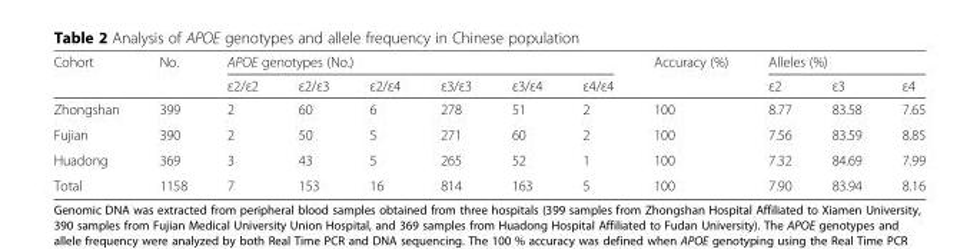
<table><thead><tr><td rowspan="2">Cohort</td><td rowspan="2">No.</td><td colspan="6">APOE genotypes (No.)</td><td rowspan="2">Accuracy (%)</td><td colspan="3">Alleles (%)</td></tr><tr><td>ε2/ε2</td><td>ε2/ε3</td><td>ε2/ε4</td><td>ε3/ε3</td><td>ε3/ε4</td><td>ε4/ε4</td><td>ε2</td><td>ε3</td><td>ε4</td></tr></thead><tbody><tr><td>Zhongshan</td><td>399</td><td>2</td><td>60</td><td>6</td><td>278</td><td>51</td><td>2</td><td>100</td><td>8.77</td><td>83.58</td><td>7.65</td></tr><tr><td>Fujian</td><td>390</td><td>2</td><td>50</td><td>5</td><td>271</td><td>60</td><td>2</td><td>100</td><td>7.56</td><td>83.59</td><td>8.85</td></tr><tr><td>Huadong</td><td>369</td><td>3</td><td>43</td><td>5</td><td>265</td><td>52</td><td>1</td><td>100</td><td>7.32</td><td>84.69</td><td>7.99</td></tr><tr><td>Total</td><td>1158</td><td>7</td><td>153</td><td>16</td><td>814</td><td>163</td><td>5</td><td>100</td><td>7.90</td><td>83.94</td><td>8.16</td></tr></tbody></table>